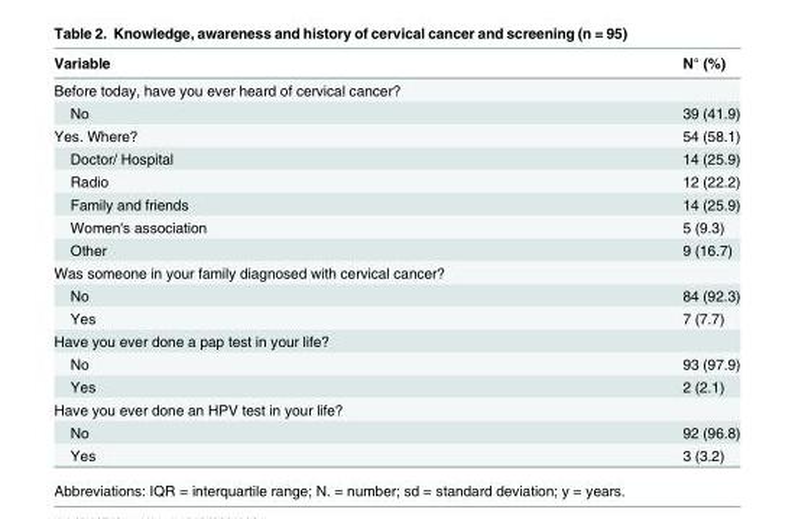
<table><thead><tr><td>Variable</td><td>N° (%)</td></tr></thead><tbody><tr><td colspan="2">Before today, have you ever heard of cervical cancer?</td></tr><tr><td>No</td><td>39 (41.9)</td></tr><tr><td>Yes. Where?</td><td>54 (58.1)</td></tr><tr><td>Doctor/ Hospital</td><td>14 (25.9)</td></tr><tr><td>Radio</td><td>12 (22.2)</td></tr><tr><td>Family and friends</td><td>14 (25.9)</td></tr><tr><td>Women&#x27;s association</td><td>5 (9.3)</td></tr><tr><td>Other</td><td>9 (16.7)</td></tr><tr><td colspan="2">Was someone in your family diagnosed with cervical cancer?</td></tr><tr><td>No</td><td>84 (92.3)</td></tr><tr><td>Yes</td><td>7 (7.7)</td></tr><tr><td colspan="2">Have you ever done a pap test in your life?</td></tr><tr><td>No</td><td>93 (97.9)</td></tr><tr><td>Yes</td><td>2 (2.1)</td></tr><tr><td colspan="2">Have you ever done an HPV test in your life?</td></tr><tr><td>No</td><td>92 (96.8)</td></tr><tr><td>Yes</td><td>3 (3.2)</td></tr></tbody></table>